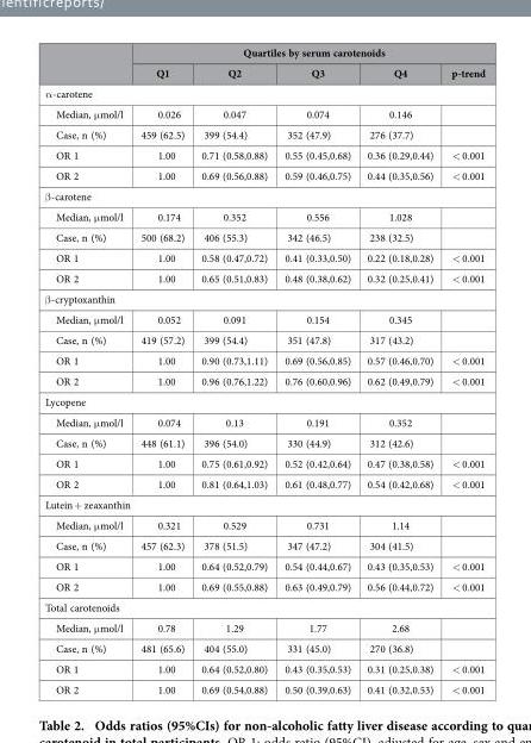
<table><thead><tr><td rowspan="2"></td><td colspan="5">Quartiles by serum carotenoids</td></tr><tr><td>Q1</td><td>Q2</td><td>Q3</td><td>Q4</td><td>p-trend</td></tr></thead><tbody><tr><td colspan="6">α -carotene</td></tr><tr><td>Median, μ mol/l</td><td>0.026</td><td>0.047</td><td>0.074</td><td>0.146</td><td></td></tr><tr><td>Case, n (%)</td><td>459 (62.5)</td><td>399 (54.4)</td><td>352 (47.9)</td><td>276 (37.7)</td><td></td></tr><tr><td>OR 1</td><td>1.00</td><td>0.71 (0.58,0.88)</td><td>0.55 (0.45,0.68)</td><td>0.36 (0.29,0.44)</td><td>&lt; 0.001</td></tr><tr><td>OR 2</td><td>1.00</td><td>0.69 (0.56,0.88)</td><td>0.59 (0.46,0.75)</td><td>0.44 (0.35,0.56)</td><td>&lt; 0.001</td></tr><tr><td colspan="6">β -carotene</td></tr><tr><td>Median, μ mol/l</td><td>0.174</td><td>0.352</td><td>0.556</td><td>1.028</td><td></td></tr><tr><td>Case, n (%)</td><td>500 (68.2)</td><td>406 (55.3)</td><td>342 (46.5)</td><td>238 (32.5)</td><td></td></tr><tr><td>OR 1</td><td>1.00</td><td>0.58 (0.47,0.72)</td><td>0.41 (0.33,0.50)</td><td>0.22 (0.18,0.28)</td><td>&lt; 0.001</td></tr><tr><td>OR 2</td><td>1.00</td><td>0.65 (0.51,0.83)</td><td>0.48 (0.38,0.62)</td><td>0.32 (0.25,0.41)</td><td>&lt; 0.001</td></tr><tr><td colspan="6">β -cryptoxanthin</td></tr><tr><td>Median, μ mol/l</td><td>0.052</td><td>0.091</td><td>0.154</td><td>0.345</td><td></td></tr><tr><td>Case, n (%)</td><td>419 (57.2)</td><td>399 (54.4)</td><td>351 (47.8)</td><td>317 (43.2)</td><td></td></tr><tr><td>OR 1</td><td>1.00</td><td>0.90 (0.73,1.11)</td><td>0.69 (0.56,0.85)</td><td>0.57 (0.46,0.70)</td><td>&lt; 0.001</td></tr><tr><td>OR 2</td><td>1.00</td><td>0.96 (0.76,1.22)</td><td>0.76 (0.60,0.96)</td><td>0.62 (0.49,0.79)</td><td>&lt; 0.001</td></tr><tr><td colspan="6">Lycopene</td></tr><tr><td>Median, μ mol/l</td><td>0.074</td><td>0.13</td><td>0.191</td><td>0.352</td><td></td></tr><tr><td>Case, n (%)</td><td>448 (61.1)</td><td>396 (54.0)</td><td>330 (44.9)</td><td>312 (42.6)</td><td></td></tr><tr><td>OR 1</td><td>1.00</td><td>0.75 (0.61,0.92)</td><td>0.52 (0.42,0.64)</td><td>0.47 (0.38,0.58)</td><td>&lt; 0.001</td></tr><tr><td>OR 2</td><td>1.00</td><td>0.81 (0.64,1.03)</td><td>0.61 (0.48,0.77)</td><td>0.54 (0.42,0.68)</td><td>&lt; 0.001</td></tr><tr><td colspan="6">Lutein + zeaxanthin</td></tr><tr><td>Median, μ mol/l</td><td>0.321</td><td>0.529</td><td>0.731</td><td>1.14</td><td></td></tr><tr><td>Case, n (%)</td><td>457 (62.3)</td><td>378 (51.5)</td><td>347 (47.2)</td><td>304 (41.5)</td><td></td></tr><tr><td>OR 1</td><td>1.00</td><td>0.64 (0.52,0.79)</td><td>0.54 (0.44,0.67)</td><td>0.43 (0.35,0.53)</td><td>&lt; 0.001</td></tr><tr><td>OR 2</td><td>1.00</td><td>0.69 (0.55,0.88)</td><td>0.63 (0.49,0.79)</td><td>0.56 (0.44,0.72)</td><td>&lt; 0.001</td></tr><tr><td colspan="6">Total carotenoids</td></tr><tr><td>Median, μ mol/l</td><td>0.78</td><td>1.29</td><td>1.77</td><td>2.68</td><td></td></tr><tr><td>Case, n (%)</td><td>481 (65.6)</td><td>404 (55.0)</td><td>331 (45.0)</td><td>270 (36.8)</td><td></td></tr><tr><td>OR 1</td><td>1.00</td><td>0.64 (0.52,0.80)</td><td>0.43 (0.35,0.53)</td><td>0.31 (0.25,0.38)</td><td>&lt; 0.001</td></tr><tr><td>OR 2</td><td>1.00</td><td>0.69 (0.54,0.88)</td><td>0.50 (0.39,0.63)</td><td>0.41 (0.32,0.53)</td><td>&lt; 0.001</td></tr></tbody></table>